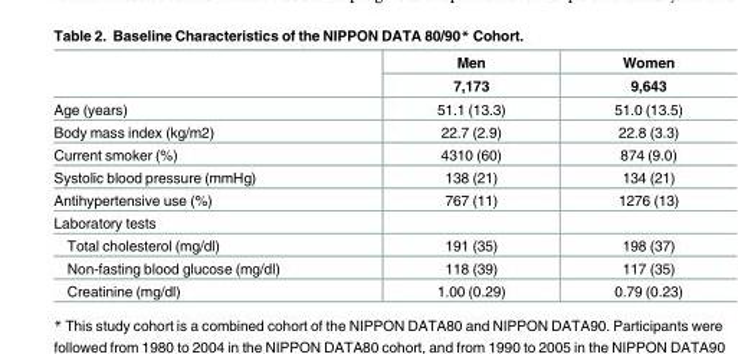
<table><thead><tr><td rowspan="2"></td><td rowspan="2">Men 7,173</td><td rowspan="2">Women 9,643</td></tr><tr></tr></thead><tbody><tr><td>Age (years)</td><td>51.1 (13.3)</td><td>51.0 (13.5)</td></tr><tr><td>Body mass index (kg/m2)</td><td>22.7 (2.9)</td><td>22.8 (3.3)</td></tr><tr><td>Current smoker (%)</td><td>4310 (60)</td><td>874 (9.0)</td></tr><tr><td>Systolic blood pressure (mmHg)</td><td>138 (21)</td><td>134 (21)</td></tr><tr><td>Antihypertensive use (%)</td><td>767 (11)</td><td>1276 (13)</td></tr><tr><td colspan="3">Laboratory tests</td></tr><tr><td>Total cholesterol (mg/dl)</td><td>191 (35)</td><td>198 (37)</td></tr><tr><td>Non-fasting blood glucose (mg/dl)</td><td>118 (39)</td><td>117 (35)</td></tr><tr><td>Creatinine (mg/dl)</td><td>1.00 (0.29)</td><td>0.79 (0.23)</td></tr></tbody></table>